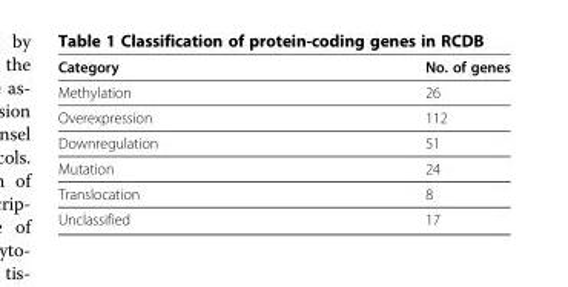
<table><thead><tr><td>Category</td><td>No. of genes</td></tr></thead><tbody><tr><td>Methylation</td><td>26</td></tr><tr><td>Overexpression</td><td>112</td></tr><tr><td>Downregulation</td><td>51</td></tr><tr><td>Mutation</td><td>24</td></tr><tr><td>Translocation</td><td>8</td></tr><tr><td>Unclassified</td><td>17</td></tr></tbody></table>